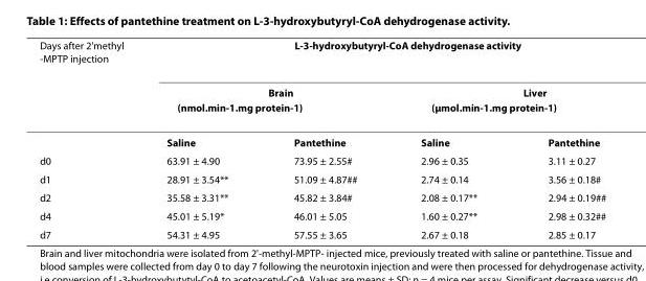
<table><thead><tr><td rowspan="3">Days after 2&#x27;methyl -MPTP injection</td><td colspan="4">L-3-hydroxybutyryl-CoA dehydrogenase activity</td></tr><tr><td colspan="2">Brain (nmol.min<sup>-1</sup>.mg protein<sup>-1</sup>)</td><td colspan="2">Liver (μmol.min<sup>-1</sup>.mg protein<sup>-1</sup>)</td></tr><tr><td>Saline</td><td>Pantethine</td><td>Saline</td><td>Pantethine</td></tr></thead><tbody><tr><td>d0</td><td>63.91 ± 4.90</td><td>73.95 ± 2.55#</td><td>2.96 ± 0.35</td><td>3.11 ± 0.27</td></tr><tr><td>d1</td><td>28.91 ± 3.54**</td><td>51.09 ± 4.87##</td><td>2.74 ± 0.14</td><td>3.56 ± 0.18#</td></tr><tr><td>d2</td><td>35.58 ± 3.31**</td><td>45.82 ± 3.84#</td><td>2.08 ± 0.17**</td><td>2.94 ± 0.19##</td></tr><tr><td>d4</td><td>45.01 ± 5.19*</td><td>46.01 ± 5.05</td><td>1.60 ± 0.27**</td><td>2.98 ± 0.32##</td></tr><tr><td>d7</td><td>54.31 ± 4.95</td><td>57.55 ± 3.65</td><td>2.67 ± 0.18</td><td>2.85 ± 0.17</td></tr></tbody></table>